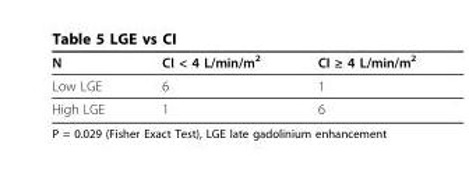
<table><thead><tr><td>N</td><td>CI &lt; 4 L/min/m<sup>2</sup></td><td>CI ≥ 4 L/min/m<sup>2</sup></td></tr></thead><tbody><tr><td>Low LGE</td><td>6</td><td>1</td></tr><tr><td>High LGE</td><td>1</td><td>6</td></tr></tbody></table>